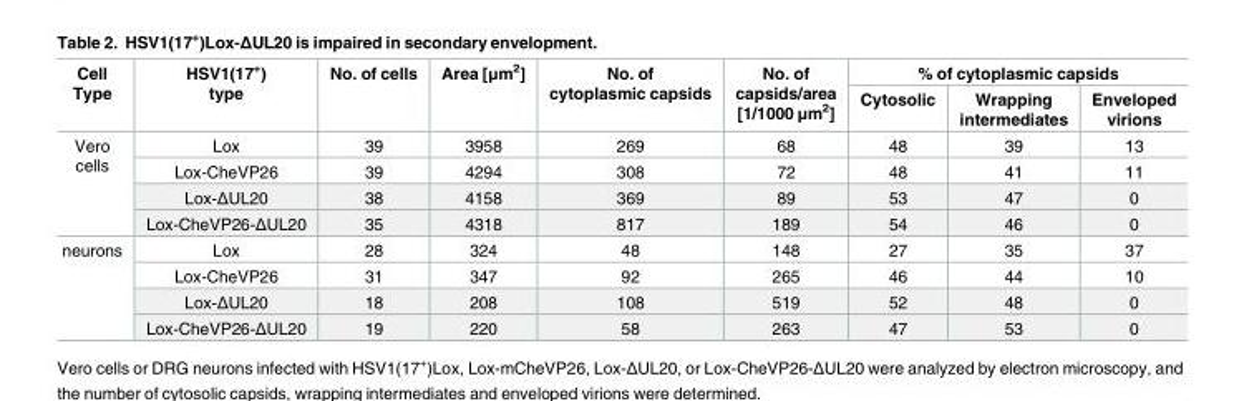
<table><thead><tr><td rowspan="2">Cell Type</td><td rowspan="2">HSV1(17<sup>+</sup>) type</td><td rowspan="2">No. of cells</td><td rowspan="2">Area [μm<sup>2</sup>]</td><td rowspan="2">No. of cytoplasmic capsids</td><td rowspan="2">No. of capsids/area [1/1000 μm<sup>2</sup>]</td><td colspan="3">% of cytoplasmic capsids</td></tr><tr><td>Cytosolic</td><td>Wrapping intermediates</td><td>Enveloped virions</td></tr></thead><tbody><tr><td rowspan="4">Vero cells</td><td>Lox</td><td>39</td><td>3958</td><td>269</td><td>68</td><td>48</td><td>39</td><td>13</td></tr><tr><td>Lox-CheVP26</td><td>39</td><td>4294</td><td>308</td><td>72</td><td>48</td><td>41</td><td>11</td></tr><tr><td>Lox-ΔUL20</td><td>38</td><td>4158</td><td>369</td><td>89</td><td>53</td><td>47</td><td>0</td></tr><tr><td>Lox-CheVP26-ΔUL20</td><td>35</td><td>4318</td><td>817</td><td>189</td><td>54</td><td>46</td><td>0</td></tr><tr><td rowspan="4">neurons</td><td>Lox</td><td>28</td><td>324</td><td>48</td><td>148</td><td>27</td><td>35</td><td>37</td></tr><tr><td>Lox-CheVP26</td><td>31</td><td>347</td><td>92</td><td>265</td><td>46</td><td>44</td><td>10</td></tr><tr><td>Lox-ΔUL20</td><td>18</td><td>208</td><td>108</td><td>519</td><td>52</td><td>48</td><td>0</td></tr><tr><td>Lox-CheVP26-ΔUL20</td><td>19</td><td>220</td><td>58</td><td>263</td><td>47</td><td>53</td><td>0</td></tr></tbody></table>